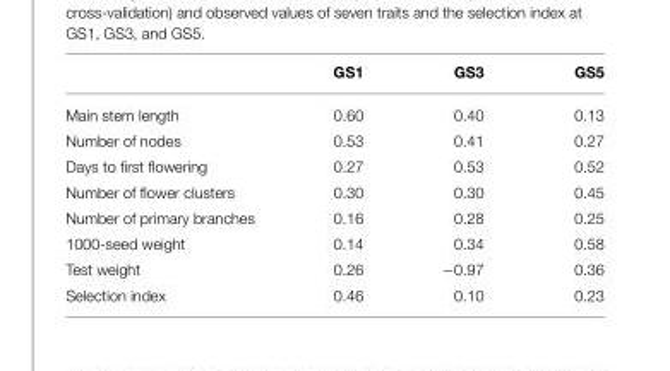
<table><thead><tr><td></td><td>GS1</td><td>GS3</td><td>GS5</td></tr></thead><tbody><tr><td>Main stem length</td><td>0.60</td><td>0.40</td><td>0.13</td></tr><tr><td>Number of nodes</td><td>0.53</td><td>0.41</td><td>0.27</td></tr><tr><td>Days to first flowering</td><td>0.27</td><td>0.53</td><td>0.52</td></tr><tr><td>Number of flower clusters</td><td>0.30</td><td>0.30</td><td>0.45</td></tr><tr><td>Number of primary branches</td><td>0.16</td><td>0.28</td><td>0.25</td></tr><tr><td>1000-seed weight</td><td>0.14</td><td>0.34</td><td>0.58</td></tr><tr><td>Test weight</td><td>0.26</td><td>−0.97</td><td>0.36</td></tr><tr><td>Selection index</td><td>0.46</td><td>0.10</td><td>0.23</td></tr></tbody></table>